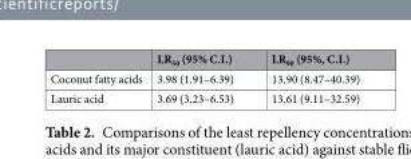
<table><thead><tr><td></td><td>LR<sub>50</sub> (95% C.I.)</td><td>LR<sub>90</sub> (95%, C.I.)</td></tr></thead><tbody><tr><td>Coconut fatty acids</td><td>3.98 (1.91–6.39)</td><td>13.90 (8.47–40.39)</td></tr><tr><td>Lauric acid</td><td>3.69 (3.23–6.53)</td><td>13.61 (9.11–32.59)</td></tr></tbody></table>